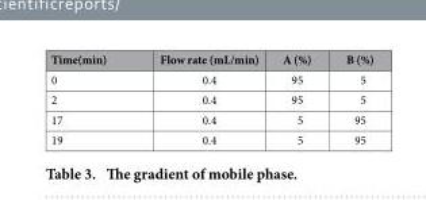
<table><thead><tr><td>Time(min)</td><td>Flow rate (mL/min)</td><td>A (%)</td><td>B (%)</td></tr></thead><tbody><tr><td>0</td><td>0.4</td><td>95</td><td>5</td></tr><tr><td>2</td><td>0.4</td><td>95</td><td>5</td></tr><tr><td>17</td><td>0.4</td><td>5</td><td>95</td></tr><tr><td>19</td><td>0.4</td><td>5</td><td>95</td></tr></tbody></table>